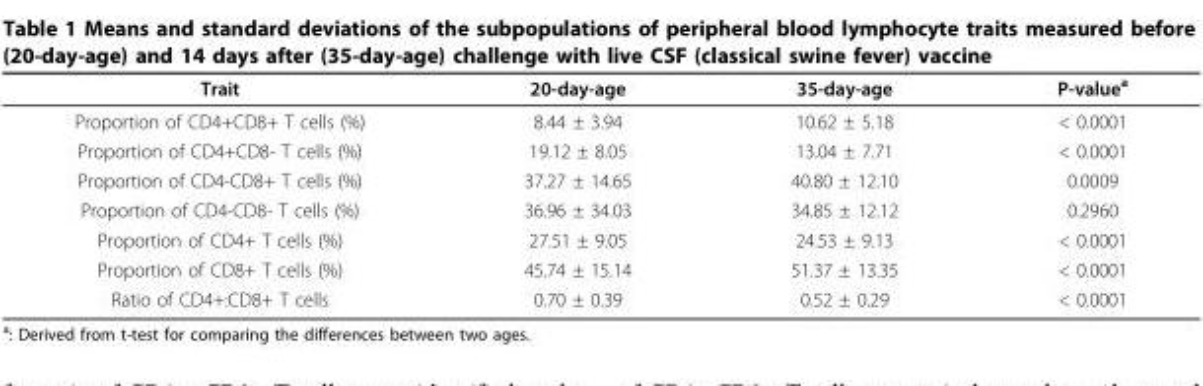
<table><thead><tr><td>Trait</td><td>20-day-age</td><td>35-day-age</td><td>P-value<sup>a</sup></td></tr></thead><tbody><tr><td>Proportion of CD4+CD8+ T cells (%)</td><td>8.44 ± 3.94</td><td>10.62 ± 5.18</td><td>&lt; 0.0001</td></tr><tr><td>Proportion of CD4+CD8- T cells (%)</td><td>19.12 ± 8.05</td><td>13.04 ± 7.71</td><td>&lt; 0.0001</td></tr><tr><td>Proportion of CD4-CD8+ T cells (%)</td><td>37.27 ± 14.65</td><td>40.80 ± 12.10</td><td>0.0009</td></tr><tr><td>Proportion of CD4-CD8- T cells (%)</td><td>36.96 ± 34.03</td><td>34.85 ± 12.12</td><td>0.2960</td></tr><tr><td>Proportion of CD4+ T cells (%)</td><td>27.51 ± 9.05</td><td>24.53 ± 9.13</td><td>&lt; 0.0001</td></tr><tr><td>Proportion of CD8+ T cells (%)</td><td>45.74 ± 15.14</td><td>51.37 ± 13.35</td><td>&lt; 0.0001</td></tr><tr><td>Ratio of CD4+:CD8+ T cells</td><td>0.70 ± 0.39</td><td>0.52 ± 0.29</td><td>&lt; 0.0001</td></tr></tbody></table>